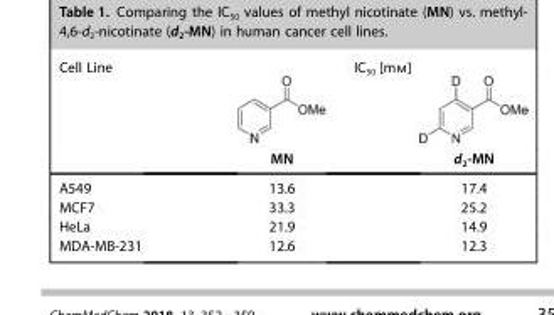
<table><thead><tr><td rowspan="2">Cell Line</td><td colspan="2">IC<sub>50</sub> [mm]</td></tr><tr><td>MN</td><td>d<sub>2</sub>-MN</td></tr></thead><tbody><tr><td>A549</td><td>13.6</td><td>17.4</td></tr><tr><td>MCF7</td><td>33.3</td><td>25.2</td></tr><tr><td>HeLa</td><td>21.9</td><td>14.9</td></tr><tr><td>MDA-MB-231</td><td>12.6</td><td>12.3</td></tr></tbody></table>